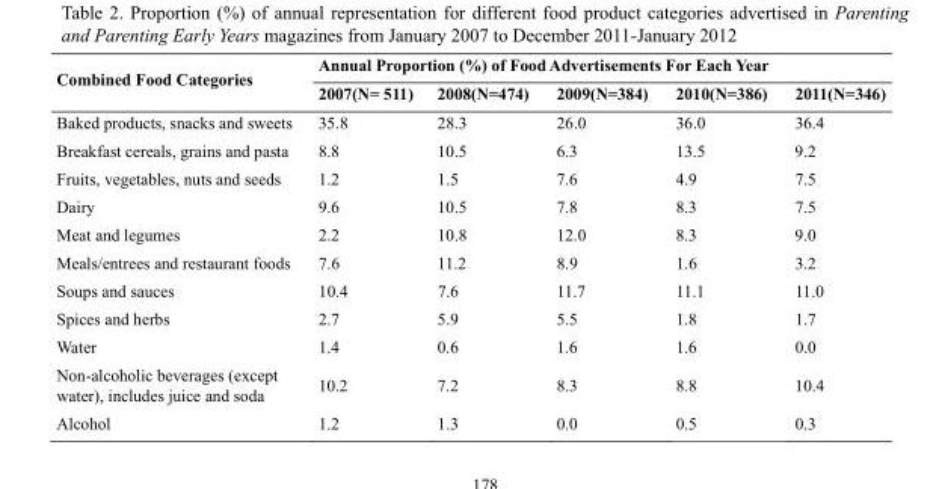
<table><thead><tr><td rowspan="2">Combined Food Categories</td><td colspan="5">Annual Proportion (%) of Food Advertisements For Each Year</td></tr><tr><td>2007(N= 511)</td><td>2008(N=474)</td><td>2009(N=384)</td><td>2010(N=386)</td><td>2011(N=346)</td></tr></thead><tbody><tr><td>Baked products, snacks and sweets</td><td>35.8</td><td>28.3</td><td>26.0</td><td>36.0</td><td>36.4</td></tr><tr><td>Breakfast cereals, grains and pasta</td><td>8.8</td><td>10.5</td><td>6.3</td><td>13.5</td><td>9.2</td></tr><tr><td>Fruits, vegetables, nuts and seeds</td><td>1.2</td><td>1.5</td><td>7.6</td><td>4.9</td><td>7.5</td></tr><tr><td>Dairy</td><td>9.6</td><td>10.5</td><td>7.8</td><td>8.3</td><td>7.5</td></tr><tr><td>Meat and legumes</td><td>2.2</td><td>10.8</td><td>12.0</td><td>8.3</td><td>9.0</td></tr><tr><td>Meals/entrees and restaurant foods</td><td>7.6</td><td>11.2</td><td>8.9</td><td>1.6</td><td>3.2</td></tr><tr><td>Soups and sauces</td><td>10.4</td><td>7.6</td><td>11.7</td><td>11.1</td><td>11.0</td></tr><tr><td>Spices and herbs</td><td>2.7</td><td>5.9</td><td>5.5</td><td>1.8</td><td>1.7</td></tr><tr><td>Water</td><td>1.4</td><td>0.6</td><td>1.6</td><td>1.6</td><td>0.0</td></tr><tr><td>Non-alcoholic beverages (except water), includes juice and soda</td><td>10.2</td><td>7.2</td><td>8.3</td><td>8.8</td><td>10.4</td></tr><tr><td>Alcohol</td><td>1.2</td><td>1.3</td><td>0.0</td><td>0.5</td><td>0.3</td></tr></tbody></table>